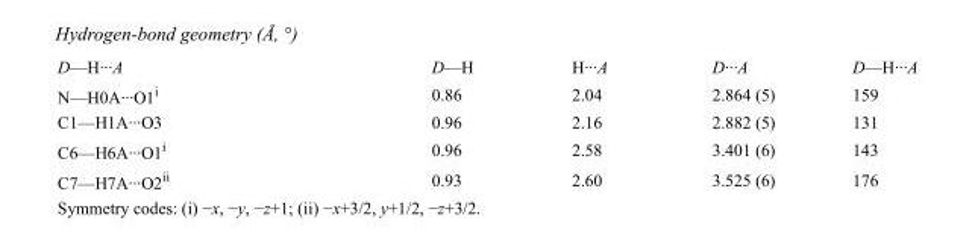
<table><tbody><tr><td>D—H···A</td><td>D—H</td><td>H···A</td><td>D···A</td><td>D—H···A</td></tr><tr><td>N—H0A···O1<sup>i</sup></td><td>0.86</td><td>2.04</td><td>2.864 (5)</td><td>159</td></tr><tr><td>C1—H1A···O3</td><td>0.96</td><td>2.16</td><td>2.882 (5)</td><td>131</td></tr><tr><td>C6—H6A···O1<sup>i</sup></td><td>0.96</td><td>2.58</td><td>3.401 (6)</td><td>143</td></tr><tr><td>C7—H7A···O2<sup>ii</sup></td><td>0.93</td><td>2.60</td><td>3.525 (6)</td><td>176</td></tr></tbody></table>